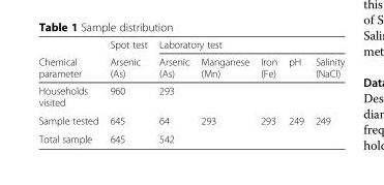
<table><thead><tr><td rowspan="2">Chemical parameter</td><td rowspan="2">Spot test Arsenic (As)</td><td colspan="5">Laboratory test</td></tr><tr><td>Arsenic (As)</td><td>Manganese (Mn)</td><td>Iron (Fe)</td><td>pH</td><td>Salinity (NaCl)</td></tr></thead><tbody><tr><td>Households visited</td><td>960</td><td>293</td><td></td><td></td><td></td><td></td></tr><tr><td>Sample tested</td><td>645</td><td>64</td><td>293</td><td>293</td><td>249</td><td>249</td></tr><tr><td>Total sample</td><td>645</td><td colspan="5">542</td></tr></tbody></table>